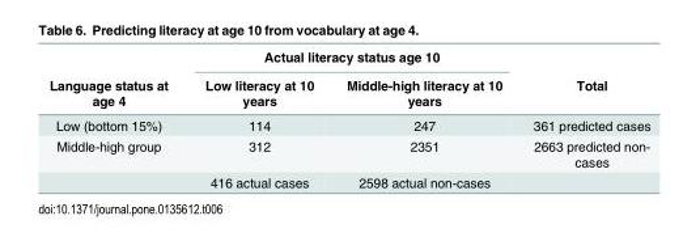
<table><thead><tr><td rowspan="2">Language status at age 4</td><td colspan="2">Actual literacy status age 10</td><td rowspan="2">Total</td></tr><tr><td>Low literacy at 10 years</td><td>Middle-high literacy at 10 years</td></tr></thead><tbody><tr><td>Low (bottom 15%)</td><td>114</td><td>247</td><td>361 predicted cases</td></tr><tr><td rowspan="2">Middle-high group</td><td>312</td><td>2351</td><td>2663 predicted non- cases</td></tr><tr><td>416 actual cases</td><td>2598 actual non-cases</td><td></td></tr></tbody></table>